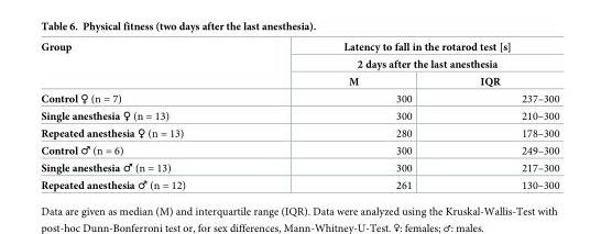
<table><thead><tr><td rowspan="3">Group</td><td rowspan="2" colspan="2">Latency to fall in the rotarod test [s] 2 days after the last anesthesia</td></tr><tr></tr><tr><td>M</td><td>IQR</td></tr></thead><tbody><tr><td>Control ♀ (n = 7)</td><td>300</td><td>237–300</td></tr><tr><td>Single anesthesia ♀ (n = 13)</td><td>300</td><td>210–300</td></tr><tr><td>Repeated anesthesia ♀ (n = 13)</td><td>280</td><td>178–300</td></tr><tr><td>Control ♂ (n = 6)</td><td>300</td><td>249–300</td></tr><tr><td>Single anesthesia ♂ (n = 13)</td><td>300</td><td>217–300</td></tr><tr><td>Repeated anesthesia ♂ (n = 12)</td><td>261</td><td>130–300</td></tr></tbody></table>